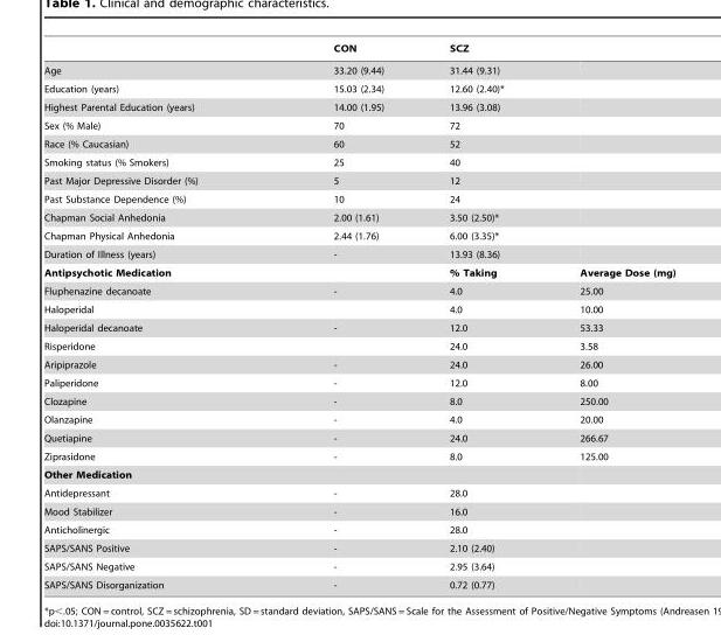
<table><thead><tr><td></td><td>CON</td><td>SCZ</td><td></td></tr></thead><tbody><tr><td>Age</td><td>33.20 (9.44)</td><td>31.44 (9.31)</td><td></td></tr><tr><td>Education (years)</td><td>15.03 (2.34)</td><td>12.60 (2.40)*</td><td></td></tr><tr><td>Highest Parental Education (years)</td><td>14.00 (1.95)</td><td>13.96 (3.08)</td><td></td></tr><tr><td>Sex (% Male)</td><td>70</td><td>72</td><td></td></tr><tr><td>Race (% Caucasian)</td><td>60</td><td>52</td><td></td></tr><tr><td>Smoking status (% Smokers)</td><td>25</td><td>40</td><td></td></tr><tr><td>Past Major Depressive Disorder (%)</td><td>5</td><td>12</td><td></td></tr><tr><td>Past Substance Dependence (%)</td><td>10</td><td>24</td><td></td></tr><tr><td>Chapman Social Anhedonia</td><td>2.00 (1.61)</td><td>3.50 (2.50)*</td><td></td></tr><tr><td>Chapman Physical Anhedonia</td><td>2.44 (1.76)</td><td>6.00 (3.35)*</td><td></td></tr><tr><td>Duration of Illness (years)</td><td>-</td><td>13.93 (8.36)</td><td></td></tr><tr><td>Antipsychotic Medication</td><td></td><td>% Taking</td><td>Average Dose (mg)</td></tr><tr><td>Fluphenazine decanoate</td><td>-</td><td>4.0</td><td>25.00</td></tr><tr><td>Haloperidal</td><td></td><td>4.0</td><td>10.00</td></tr><tr><td>Haloperidal decanoate</td><td>-</td><td>12.0</td><td>53.33</td></tr><tr><td>Risperidone</td><td></td><td>24.0</td><td>3.58</td></tr><tr><td>Aripiprazole</td><td>-</td><td>24.0</td><td>26.00</td></tr><tr><td>Paliperidone</td><td>-</td><td>12.0</td><td>8.00</td></tr><tr><td>Clozapine</td><td>-</td><td>8.0</td><td>250.00</td></tr><tr><td>Olanzapine</td><td>-</td><td>4.0</td><td>20.00</td></tr><tr><td>Quetiapine</td><td>-</td><td>24.0</td><td>266.67</td></tr><tr><td>Ziprasidone</td><td>-</td><td>8.0</td><td>125.00</td></tr><tr><td colspan="4">Other Medication</td></tr><tr><td>Antidepressant</td><td>-</td><td>28.0</td><td></td></tr><tr><td>Mood Stabilizer</td><td>-</td><td>16.0</td><td></td></tr><tr><td>Anticholinergic</td><td>-</td><td>28.0</td><td></td></tr><tr><td>SAPS/SANS Positive</td><td>-</td><td>2.10 (2.40)</td><td></td></tr><tr><td>SAPS/SANS Negative</td><td>-</td><td>2.95 (3.64)</td><td></td></tr><tr><td>SAPS/SANS Disorganization</td><td>-</td><td>0.72 (0.77)</td><td></td></tr></tbody></table>